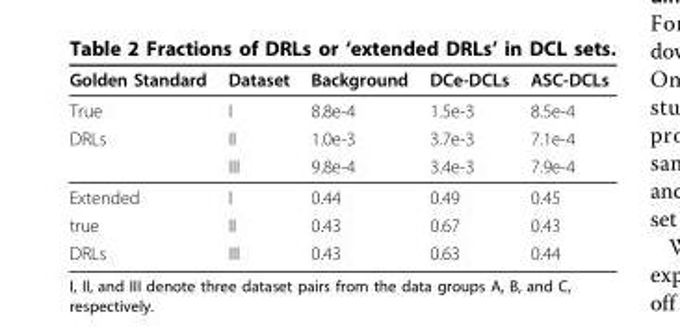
<table><thead><tr><td>Golden Standard</td><td>Dataset</td><td>Background</td><td>DCe-DCLs</td><td>ASC-DCLs</td></tr></thead><tbody><tr><td>True</td><td>I</td><td>8.8e-4</td><td>1.5e-3</td><td>8.5e-4</td></tr><tr><td rowspan="2">DRLs</td><td>II</td><td>1.0e-3</td><td>3.7e-3</td><td>7.1e-4</td></tr><tr><td>III</td><td>9.8e-4</td><td>3.4e-3</td><td>7.9e-4</td></tr><tr><td>Extended</td><td>I</td><td>0.44</td><td>0.49</td><td>0.45</td></tr><tr><td>true</td><td>II</td><td>0.43</td><td>0.67</td><td>0.43</td></tr><tr><td>DRLs</td><td>III</td><td>0.43</td><td>0.63</td><td>0.44</td></tr></tbody></table>